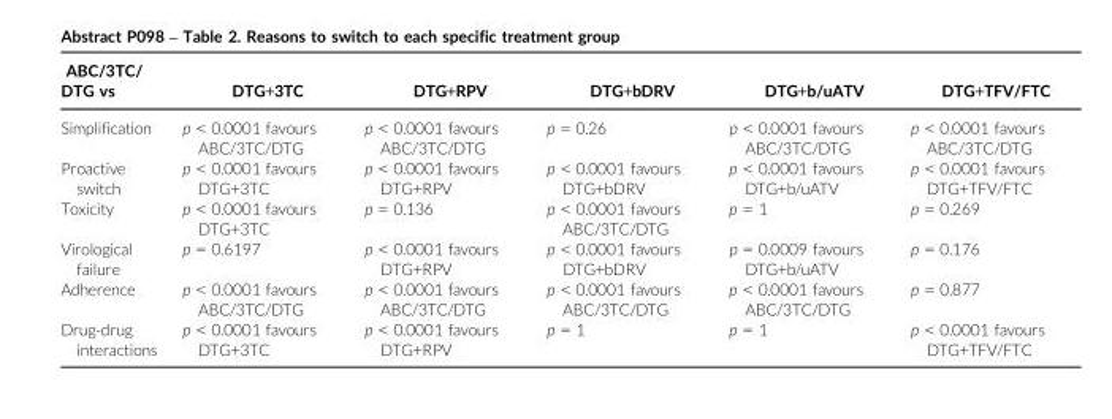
<table><thead><tr><td>ABC/3TC/ DTG vs</td><td>DTG+3TC</td><td>DTG+RPV</td><td>DTG+bDRV</td><td>DTG+b/uATV</td><td>DTG+TFV/FTC</td></tr></thead><tbody><tr><td>Simplification</td><td>p &lt; 0.0001 favours ABC/3TC/DTG</td><td>p &lt; 0.0001 favours ABC/3TC/DTG</td><td>p = 0.26</td><td>p &lt; 0.0001 favours ABC/3TC/DTG</td><td>p &lt; 0.0001 favours ABC/3TC/DTG</td></tr><tr><td>Proactive switch</td><td>p &lt; 0.0001 favours DTG+3TC</td><td>p &lt; 0.0001 favours DTG+RPV</td><td>p &lt; 0.0001 favours DTG+bDRV</td><td>p &lt; 0.0001 favours DTG+b/uATV</td><td>p &lt; 0.0001 favours DTG+TFV/FTC</td></tr><tr><td>Toxicity</td><td>p &lt; 0.0001 favours DTG+3TC</td><td>p = 0.136</td><td>p &lt; 0.0001 favours ABC/3TC/DTG</td><td>p = 1</td><td>p = 0.269</td></tr><tr><td>Virological failure</td><td>p = 0.6197</td><td>p &lt; 0.0001 favours DTG+RPV</td><td>p &lt; 0.0001 favours DTG+bDRV</td><td>p = 0.0009 favours DTG+b/uATV</td><td>p = 0.176</td></tr><tr><td>Adherence</td><td>p &lt; 0.0001 favours ABC/3TC/DTG</td><td>p &lt; 0.0001 favours ABC/3TC/DTG</td><td>p &lt; 0.0001 favours ABC/3TC/DTG</td><td>p &lt; 0.0001 favours ABC/3TC/DTG</td><td>p = 0.877</td></tr><tr><td>Drug-drug interactions</td><td>p &lt; 0.0001 favours DTG+3TC</td><td>p &lt; 0.0001 favours DTG+RPV</td><td>p = 1</td><td>p = 1</td><td>p &lt; 0.0001 favours DTG+TFV/FTC</td></tr></tbody></table>